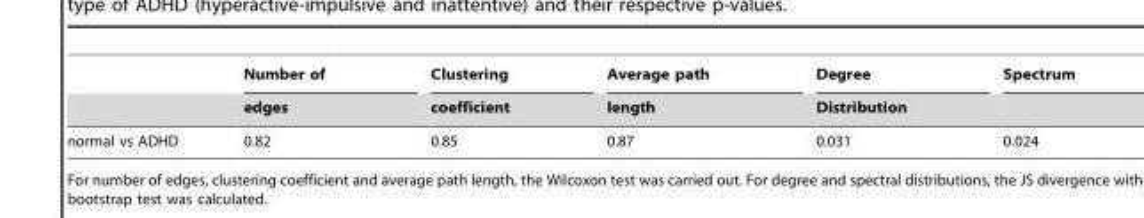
<table><thead><tr><td rowspan="2"></td><td rowspan="2">Number of edges</td><td rowspan="2">Clustering coefficient</td><td rowspan="2">Average path length</td><td rowspan="2">Degree Distribution</td><td rowspan="2">Spectrum</td></tr><tr></tr></thead><tbody><tr><td>normal vs ADHD</td><td>0.82</td><td>0.85</td><td>0.87</td><td>0.031</td><td>0.024</td></tr></tbody></table>